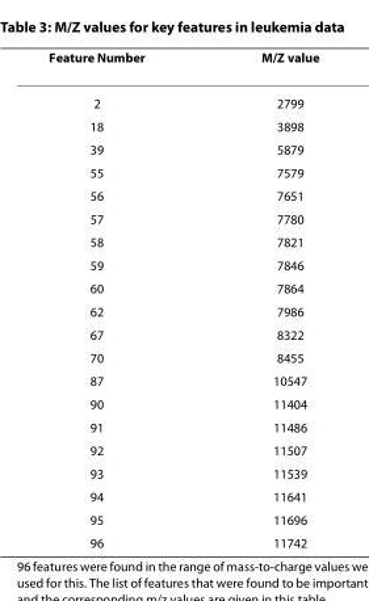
<table><thead><tr><td>Feature Number</td><td>M/Z value</td></tr></thead><tbody><tr><td>2</td><td>2799</td></tr><tr><td>18</td><td>3898</td></tr><tr><td>39</td><td>5879</td></tr><tr><td>55</td><td>7579</td></tr><tr><td>56</td><td>7651</td></tr><tr><td>57</td><td>7780</td></tr><tr><td>58</td><td>7821</td></tr><tr><td>59</td><td>7846</td></tr><tr><td>60</td><td>7864</td></tr><tr><td>62</td><td>7986</td></tr><tr><td>67</td><td>8322</td></tr><tr><td>70</td><td>8455</td></tr><tr><td>87</td><td>10547</td></tr><tr><td>90</td><td>11404</td></tr><tr><td>91</td><td>11486</td></tr><tr><td>92</td><td>11507</td></tr><tr><td>93</td><td>11539</td></tr><tr><td>94</td><td>11641</td></tr><tr><td>95</td><td>11696</td></tr><tr><td>96</td><td>11742</td></tr></tbody></table>